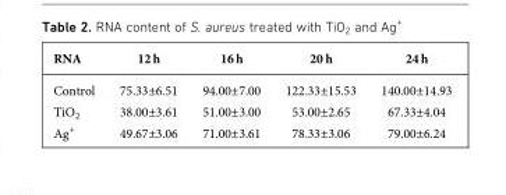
<table><thead><tr><td>RNA</td><td>12 h</td><td>16 h</td><td>20 h</td><td>24 h</td></tr></thead><tbody><tr><td>Control</td><td>75.33±6.51</td><td>94.00±7.00</td><td>122.33±15.53</td><td>140.00±14.93</td></tr><tr><td>TiO<sub>2</sub></td><td>38.00±3.61</td><td>51.00±3.00</td><td>53.00±2.65</td><td>67.33±4.04</td></tr><tr><td>Ag<sup>+</sup></td><td>49.67±3.06</td><td>71.00±3.61</td><td>78.33±3.06</td><td>79.00±6.24</td></tr></tbody></table>